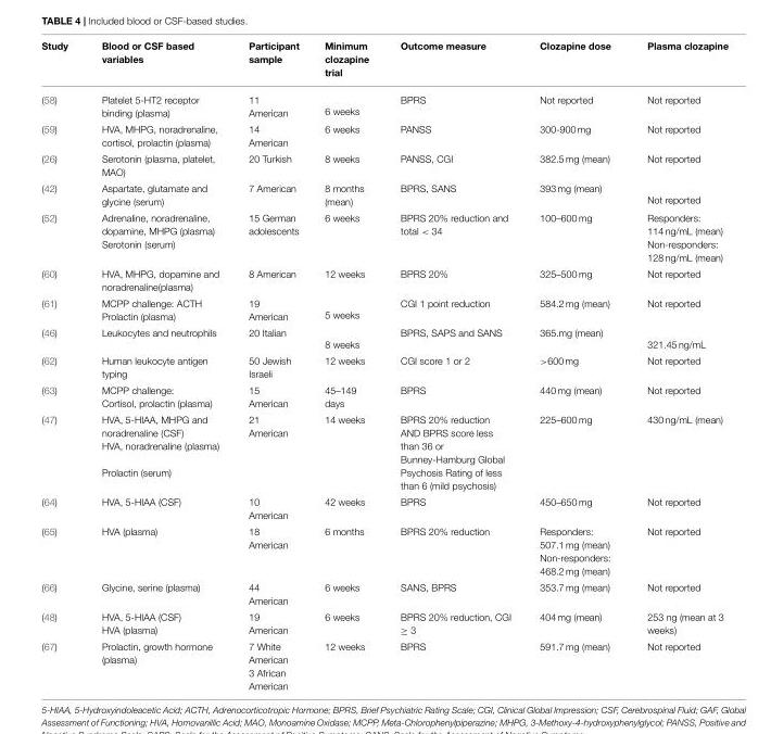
<table><thead><tr><td>Study</td><td>Blood or CSF based variables</td><td>Participant sample</td><td>Minimum clozapine trial</td><td>Outcome measure</td><td>Clozapine dose</td><td>Plasma clozapine</td></tr></thead><tbody><tr><td>(58)</td><td>Platelet 5-HT2 receptor binding (plasma)</td><td>11 American</td><td>6 weeks</td><td>BPRS</td><td>Not reported</td><td>Not reported</td></tr><tr><td>(59)</td><td>HVA, MHPG, noradrenaline, cortisol, prolactin (plasma)</td><td>14 American</td><td>6 weeks</td><td>PANSS</td><td>300-900 mg</td><td>Not reported</td></tr><tr><td>(26)</td><td>Serotonin (plasma, platelet, MAO)</td><td>20 Turkish</td><td>8 weeks</td><td>PANSS, CGI</td><td>382.5 mg (mean)</td><td>Not reported</td></tr><tr><td>(42)</td><td>Aspartate, glutamate and glycine (serum)</td><td>7 American</td><td>8 months (mean)</td><td>BPRS, SANS</td><td>393 mg (mean)</td><td>Not reported</td></tr><tr><td>(52)</td><td>Adrenaline, noradrenaline, dopamine, MHPG (plasma) Serotonin (serum)</td><td>15 German adolescents</td><td>6 weeks</td><td>BPRS 20% reduction and total &lt; 34</td><td>100–600 mg</td><td>Responders: 114 ng/mL (mean) Non-responders: 128 ng/mL (mean)</td></tr><tr><td>(60)</td><td>HVA, MHPG, dopamine and noradrenaline(plasma)</td><td>8 American</td><td>12 weeks</td><td>BPRS 20%</td><td>325–500 mg</td><td>Not reported</td></tr><tr><td>(61)</td><td>MCPP challenge: ACTH Prolactin (plasma)</td><td>19 American</td><td>5 weeks</td><td>CGI 1 point reduction</td><td>584.2 mg (mean)</td><td>Not reported</td></tr><tr><td>(46)</td><td>Leukocytes and neutrophils</td><td>20 Italian</td><td>8 weeks</td><td>BPRS, SAPS and SANS</td><td>365.mg (mean)</td><td>321.45 ng/mL</td></tr><tr><td>(62)</td><td>Human leukocyte antigen typing</td><td>50 Jewish Israeli</td><td>12 weeks</td><td>CGI score 1 or 2</td><td>&gt;600 mg</td><td>Not reported</td></tr><tr><td>(63)</td><td>MCPP challenge: Cortisol, prolactin (plasma)</td><td>15 American</td><td>45–149 days</td><td>BPRS</td><td>440 mg (mean)</td><td>Not reported</td></tr><tr><td>(47)</td><td>HVA, 5-HIAA, MHPG and noradrenaline (CSF) HVA, noradrenaline (plasma) Prolactin (serum)</td><td>21 American</td><td>14 weeks</td><td>BPRS 20% reduction AND BPRS score less than 36 or Bunney-Hamburg Global Psychosis Rating of less than 6 (mild psychosis)</td><td>225–600 mg</td><td>430 ng/mL (mean)</td></tr><tr><td>(64)</td><td>HVA, 5-HIAA (CSF)</td><td>10 American</td><td>42 weeks</td><td>BPRS</td><td>450–650 mg</td><td>Not reported</td></tr><tr><td>(65)</td><td>HVA (plasma)</td><td>18 American</td><td>6 months</td><td>BPRS 20% reduction</td><td>Responders: 507.1 mg (mean) Non-responders: 468.2 mg (mean)</td><td>Not reported</td></tr><tr><td>(66)</td><td>Glycine, serine (plasma)</td><td>44 American</td><td>6 weeks</td><td>SANS, BPRS</td><td>353.7 mg (mean)</td><td>Not reported</td></tr><tr><td>(48)</td><td>HVA, 5-HIAA (CSF) HVA (plasma)</td><td>19 American</td><td>6 weeks</td><td>BPRS 20% reduction, CGI ≥ 3</td><td>404 mg (mean)</td><td>253 ng (mean at 3 weeks)</td></tr><tr><td>(67)</td><td>Prolactin, growth hormone (plasma)</td><td>7 White American 3 African American</td><td>12 weeks</td><td>BPRS</td><td>591.7 mg (mean)</td><td>Not reported</td></tr></tbody></table>